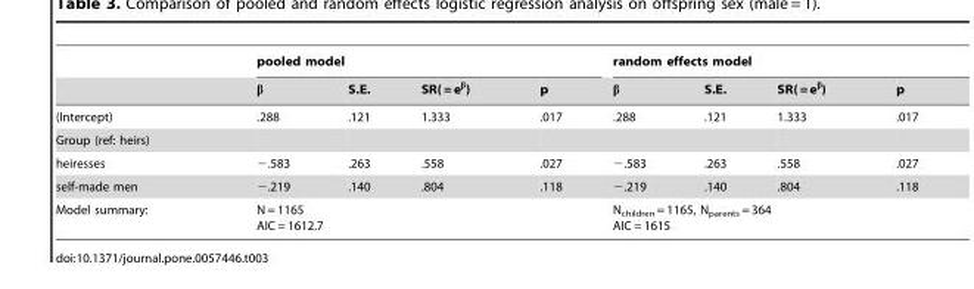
<table><thead><tr><td rowspan="2"></td><td colspan="4">pooled model</td><td colspan="4">random effects model</td></tr><tr><td>β</td><td>S.E.</td><td>SR( = e<sup>β</sup>)</td><td>p</td><td>β</td><td>S.E.</td><td>SR( = e<sup>β</sup>)</td><td>p</td></tr></thead><tbody><tr><td>(Intercept)</td><td>.288</td><td>.121</td><td>1.333</td><td>.017</td><td>.288</td><td>.121</td><td>1.333</td><td>.017</td></tr><tr><td colspan="9">Group (ref: heirs)</td></tr><tr><td>heiresses</td><td>−.583</td><td>.263</td><td>.558</td><td>.027</td><td>−.583</td><td>.263</td><td>.558</td><td>.027</td></tr><tr><td>self-made men</td><td>−.219</td><td>.140</td><td>.804</td><td>.118</td><td>−.219</td><td>.140</td><td>.804</td><td>.118</td></tr><tr><td>Model summary:</td><td colspan="4">N = 1165 AIC = 1612.7</td><td colspan="4">N<sub>children</sub> = 1165, N<sub>parents</sub> = 364 AIC = 1615</td></tr></tbody></table>